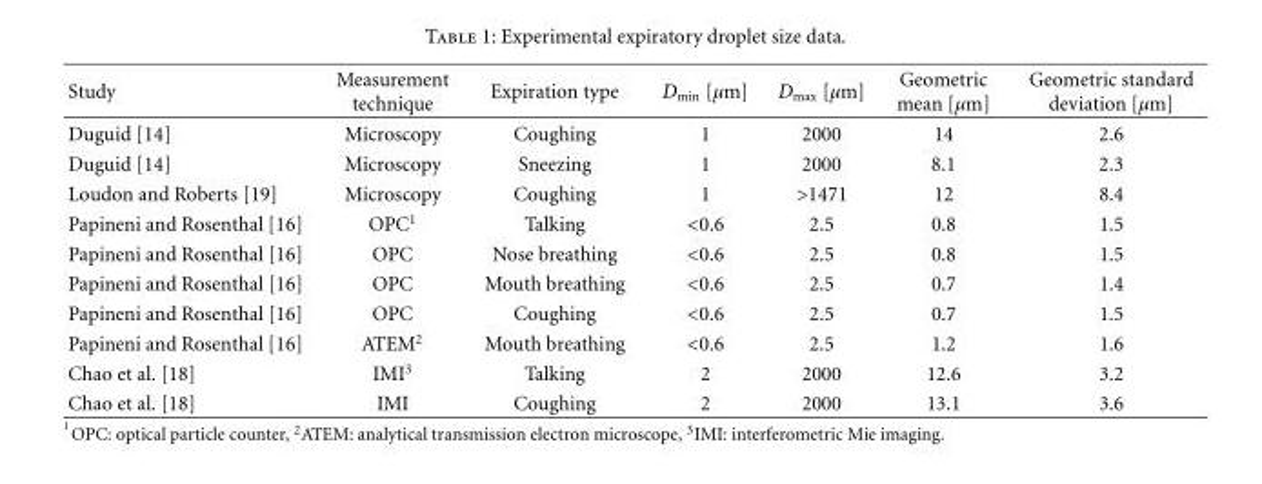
<table><thead><tr><td>Study</td><td>Measurement technique</td><td>Expiration type</td><td>D<sub>min</sub> [μm]</td><td>D<sub>max</sub> [μm]</td><td>Geometric mean [μm]</td><td>Geometric standard deviation [μm]</td></tr></thead><tbody><tr><td>Duguid [14]</td><td>Microscopy</td><td>Coughing</td><td>1</td><td>2000</td><td>14</td><td>2.6</td></tr><tr><td>Duguid [14]</td><td>Microscopy</td><td>Sneezing</td><td>1</td><td>2000</td><td>8.1</td><td>2.3</td></tr><tr><td>Loudon and Roberts [19]</td><td>Microscopy</td><td>Coughing</td><td>1</td><td>&gt;1471</td><td>12</td><td>8.4</td></tr><tr><td>Papineni and Rosenthal [16]</td><td>OPC<sup>1</sup></td><td>Talking</td><td>&lt;0.6</td><td>2.5</td><td>0.8</td><td>1.5</td></tr><tr><td>Papineni and Rosenthal [16]</td><td>OPC</td><td>Nose breathing</td><td>&lt;0.6</td><td>2.5</td><td>0.8</td><td>1.5</td></tr><tr><td>Papineni and Rosenthal [16]</td><td>OPC</td><td>Mouth breathing</td><td>&lt;0.6</td><td>2.5</td><td>0.7</td><td>1.4</td></tr><tr><td>Papineni and Rosenthal [16]</td><td>OPC</td><td>Coughing</td><td>&lt;0.6</td><td>2.5</td><td>0.7</td><td>1.5</td></tr><tr><td>Papineni and Rosenthal [16]</td><td>ATEM<sup>2</sup></td><td>Mouth breathing</td><td>&lt;0.6</td><td>2.5</td><td>1.2</td><td>1.6</td></tr><tr><td>Chao et al. [18]</td><td>IMI<sup>3</sup></td><td>Talking</td><td>2</td><td>2000</td><td>12.6</td><td>3.2</td></tr><tr><td>Chao et al. [18]</td><td>IMI</td><td>Coughing</td><td>2</td><td>2000</td><td>13.1</td><td>3.6</td></tr></tbody></table>